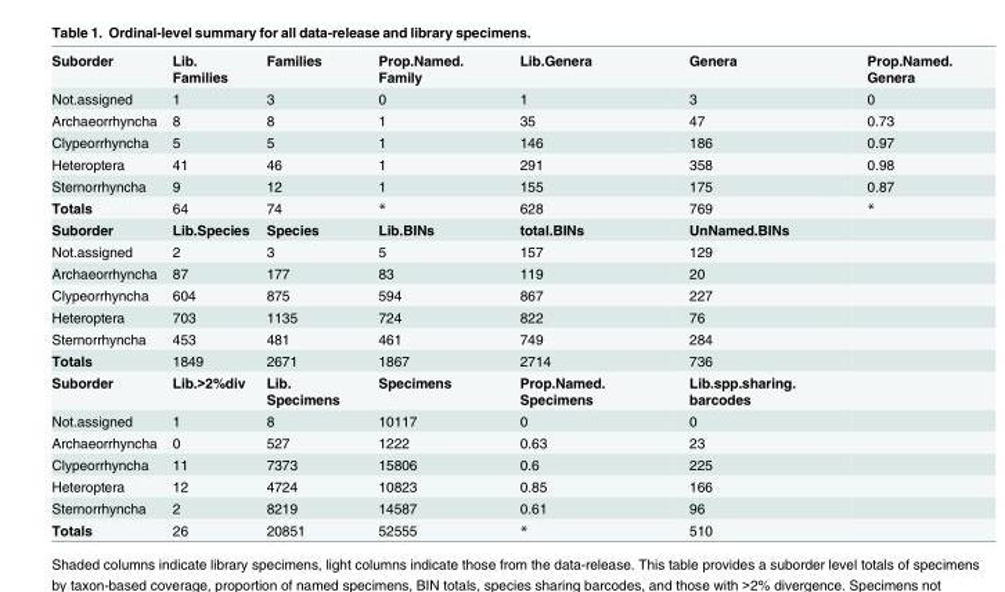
<table><tbody><tr><td>Suborder</td><td>Lib. Families</td><td>Families</td><td>Prop.Named. Family</td><td>Lib.Genera</td><td>Genera</td><td>Prop.Named. Genera</td></tr><tr><td>Not.assigned</td><td>1</td><td>3</td><td>0</td><td>1</td><td>3</td><td>0</td></tr><tr><td>Archaeorrhyncha</td><td>8</td><td>8</td><td>1</td><td>35</td><td>47</td><td>0.73</td></tr><tr><td>Clypeorrhyncha</td><td>5</td><td>5</td><td>1</td><td>146</td><td>186</td><td>0.97</td></tr><tr><td>Heteroptera</td><td>41</td><td>46</td><td>1</td><td>291</td><td>358</td><td>0.98</td></tr><tr><td>Sternorrhyncha</td><td>9</td><td>12</td><td>1</td><td>155</td><td>175</td><td>0.87</td></tr><tr><td>Totals</td><td>64</td><td>74</td><td>*</td><td>628</td><td>769</td><td>*</td></tr><tr><td>Suborder</td><td>Lib.Species</td><td>Species</td><td>Lib.BINs</td><td>total.BINs</td><td>UnNamed.BINs</td><td></td></tr><tr><td>Not.assigned</td><td>2</td><td>3</td><td>5</td><td>157</td><td>129</td><td></td></tr><tr><td>Archaeorrhyncha</td><td>87</td><td>177</td><td>83</td><td>119</td><td>20</td><td></td></tr><tr><td>Clypeorrhyncha</td><td>604</td><td>875</td><td>594</td><td>867</td><td>227</td><td></td></tr><tr><td>Heteroptera</td><td>703</td><td>1135</td><td>724</td><td>822</td><td>76</td><td></td></tr><tr><td>Sternorrhyncha</td><td>453</td><td>481</td><td>461</td><td>749</td><td>284</td><td></td></tr><tr><td>Totals</td><td>1849</td><td>2671</td><td>1867</td><td>2714</td><td>736</td><td></td></tr><tr><td>Suborder</td><td>Lib.&gt;2%div</td><td>Lib. Specimens</td><td>Specimens</td><td>Prop.Named. Specimens</td><td>Lib.spp.sharing. barcodes</td><td></td></tr><tr><td>Not.assigned</td><td>1</td><td>8</td><td>10117</td><td>0</td><td>0</td><td></td></tr><tr><td>Archaeorrhyncha</td><td>0</td><td>527</td><td>1222</td><td>0.63</td><td>23</td><td></td></tr><tr><td>Clypeorrhyncha</td><td>11</td><td>7373</td><td>15806</td><td>0.6</td><td>225</td><td></td></tr><tr><td>Heteroptera</td><td>12</td><td>4724</td><td>10823</td><td>0.85</td><td>166</td><td></td></tr><tr><td>Sternorrhyncha</td><td>2</td><td>8219</td><td>14587</td><td>0.61</td><td>96</td><td></td></tr><tr><td>Totals</td><td>26</td><td>20851</td><td>52555</td><td>*</td><td>510</td><td></td></tr></tbody></table>